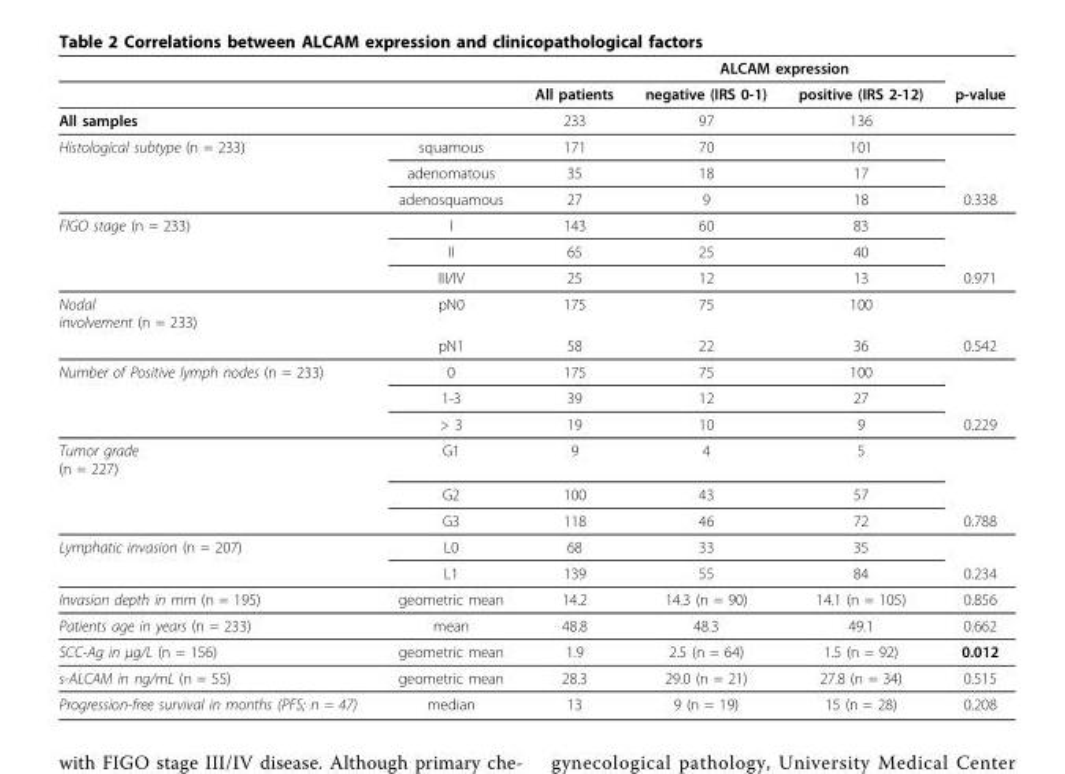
<table><thead><tr><td rowspan="2"></td><td rowspan="2"></td><td rowspan="2">All patients</td><td colspan="2">ALCAM expression</td><td rowspan="2">p-value</td></tr><tr><td>negative (IRS 0-1)</td><td>positive (IRS 2-12)</td></tr></thead><tbody><tr><td>All samples</td><td></td><td>233</td><td>97</td><td>136</td><td></td></tr><tr><td rowspan="3">Histological subtype (n = 233)</td><td>squamous</td><td>171</td><td>70</td><td>101</td><td></td></tr><tr><td>adenomatous</td><td>35</td><td>18</td><td>17</td><td></td></tr><tr><td>adenosquamous</td><td>27</td><td>9</td><td>18</td><td>0.338</td></tr><tr><td rowspan="3">FIGO stage (n = 233)</td><td>I</td><td>143</td><td>60</td><td>83</td><td></td></tr><tr><td>II</td><td>65</td><td>25</td><td>40</td><td></td></tr><tr><td>III/IV</td><td>25</td><td>12</td><td>13</td><td>0.971</td></tr><tr><td rowspan="2">Nodal involvement (n = 233)</td><td>pN0</td><td>175</td><td>75</td><td>100</td><td></td></tr><tr><td>pN1</td><td>58</td><td>22</td><td>36</td><td>0.542</td></tr><tr><td rowspan="3">Number of Positive lymph nodes (n = 233)</td><td>0</td><td>175</td><td>75</td><td>100</td><td></td></tr><tr><td>1-3</td><td>39</td><td>12</td><td>27</td><td></td></tr><tr><td>&gt; 3</td><td>19</td><td>10</td><td>9</td><td>0.229</td></tr><tr><td rowspan="3">Tumor grade (n = 227)</td><td>G1</td><td>9</td><td>4</td><td>5</td><td></td></tr><tr><td>G2</td><td>100</td><td>43</td><td>57</td><td></td></tr><tr><td>G3</td><td>118</td><td>46</td><td>72</td><td>0.788</td></tr><tr><td rowspan="2">Lymphatic invasion (n = 207)</td><td>L0</td><td>68</td><td>33</td><td>35</td><td></td></tr><tr><td>L1</td><td>139</td><td>55</td><td>84</td><td>0.234</td></tr><tr><td>Invasion depth in mm (n = 195)</td><td>geometric mean</td><td>14.2</td><td>14.3 (n = 90)</td><td>14.1 (n = 105)</td><td>0.856</td></tr><tr><td>Patients age in years (n = 233)</td><td>mean</td><td>48.8</td><td>48.3</td><td>49.1</td><td>0.662</td></tr><tr><td>SCC-Ag in μg/L (n = 156)</td><td>geometric mean</td><td>1.9</td><td>2.5 (n = 64)</td><td>1.5 (n = 92)</td><td>0.012</td></tr><tr><td>s-ALCAM in ng/mL (n = 55)</td><td>geometric mean</td><td>28.3</td><td>29.0 (n = 21)</td><td>27.8 (n = 34)</td><td>0.515</td></tr><tr><td>Progression-free survival in months (PFS; n = 47)</td><td>median</td><td>13</td><td>9 (n = 19)</td><td>15 (n = 28)</td><td>0.208</td></tr></tbody></table>